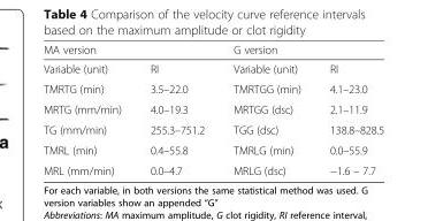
<table><thead><tr><td colspan="2">MA version</td><td colspan="2">G version</td></tr><tr><td>Variable (unit)</td><td>RI</td><td>Variable (unit)</td><td>RI</td></tr></thead><tbody><tr><td>TMRTG (min)</td><td>3.5–22.0</td><td>TMRTGG (min)</td><td>4.1–23.0</td></tr><tr><td>MRTG (mm/min)</td><td>4.0–19.3</td><td>MRTGG (dsc)</td><td>2.1–11.9</td></tr><tr><td>TG (mm/min)</td><td>255.3–751.2</td><td>TGG (dsc)</td><td>138.8–828.5</td></tr><tr><td>TMRL (min)</td><td>0.4–55.8</td><td>TMRLG (min)</td><td>0.0–55.9</td></tr><tr><td>MRL (mm/min)</td><td>0.0–4.7</td><td>MRLG (dsc)</td><td>−1.6 – 7.7</td></tr></tbody></table>